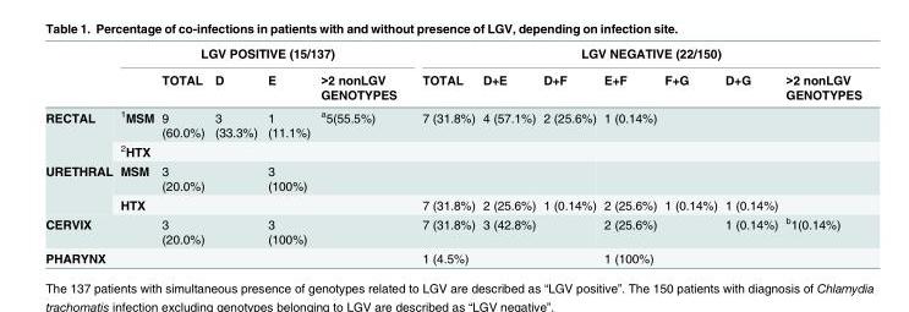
<table><thead><tr><td rowspan="2"></td><td colspan="5">LGV POSITIVE (15/137)</td><td colspan="7">LGV NEGATIVE (22/150)</td></tr><tr><td></td><td>TOTAL</td><td>D</td><td>E</td><td>&gt;2 nonLGV GENOTYPES</td><td>TOTAL</td><td>D+E</td><td>D+F</td><td>E+F</td><td>F+G</td><td>D+G</td><td>&gt;2 nonLGV GENOTYPES</td></tr></thead><tbody><tr><td rowspan="2">RECTAL</td><td><sup>1</sup>MSM</td><td>9 (60.0%)</td><td>3 (33.3%)</td><td>1 (11.1%)</td><td><sup>a</sup>5(55.5%)</td><td>7 (31.8%)</td><td>4 (57.1%)</td><td>2 (25.6%)</td><td>1 (0.14%)</td><td></td><td></td><td></td></tr><tr><td><sup>2</sup>HTX</td><td></td><td></td><td></td><td></td><td></td><td></td><td></td><td></td><td></td><td></td><td></td></tr><tr><td rowspan="2">URETHRAL</td><td>MSM</td><td>3 (20.0%)</td><td></td><td>3 (100%)</td><td></td><td></td><td></td><td></td><td></td><td></td><td></td><td></td></tr><tr><td>HTX</td><td></td><td></td><td></td><td></td><td>7 (31.8%)</td><td>2 (25.6%)</td><td>1 (0.14%)</td><td>2 (25.6%)</td><td>1 (0.14%)</td><td>1 (0.14%)</td><td></td></tr><tr><td>CERVIX</td><td></td><td>3 (20.0%)</td><td></td><td>3 (100%)</td><td></td><td>7 (31.8%)</td><td>3 (42.8%)</td><td></td><td>2 (25.6%)</td><td></td><td>1 (0.14%)</td><td><sup>b</sup>1(0.14%)</td></tr><tr><td>PHARYNX</td><td></td><td></td><td></td><td></td><td></td><td>1 (4.5%)</td><td></td><td></td><td>1 (100%)</td><td></td><td></td><td></td></tr></tbody></table>